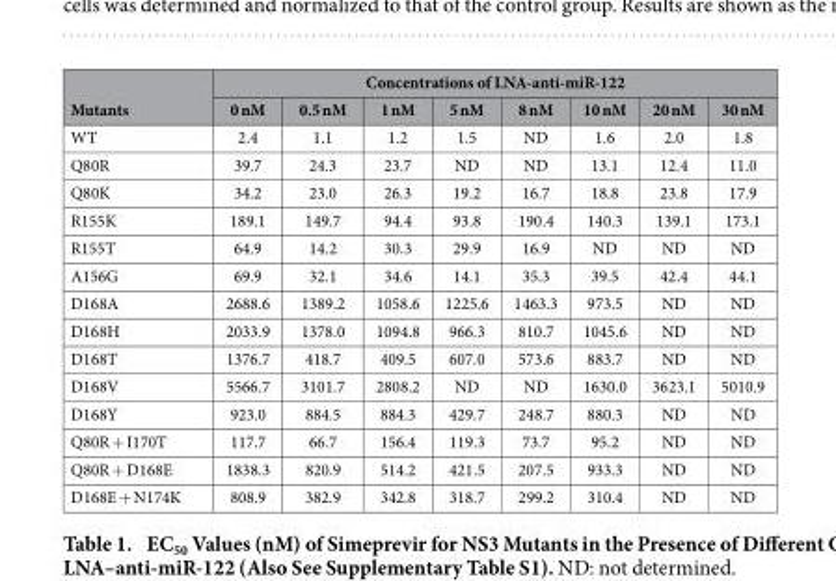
<table><thead><tr><td rowspan="2">Mutants</td><td colspan="8">Concentrations of LNA-anti-miR-122</td></tr><tr><td>0 nM</td><td>0.5 nM</td><td>1 nM</td><td>5 nM</td><td>8 nM</td><td>10 nM</td><td>20 nM</td><td>30 nM</td></tr></thead><tbody><tr><td>WT</td><td>2.4</td><td>1.1</td><td>1.2</td><td>1.5</td><td>ND</td><td>1.6</td><td>2.0</td><td>1.8</td></tr><tr><td>Q80R</td><td>39.7</td><td>24.3</td><td>23.7</td><td>ND</td><td>ND</td><td>13.1</td><td>12.4</td><td>11.0</td></tr><tr><td>Q80K</td><td>34.2</td><td>23.0</td><td>26.3</td><td>19.2</td><td>16.7</td><td>18.8</td><td>23.8</td><td>17.9</td></tr><tr><td>R155K</td><td>189.1</td><td>149.7</td><td>94.4</td><td>93.8</td><td>190.4</td><td>140.3</td><td>139.1</td><td>173.1</td></tr><tr><td>R155T</td><td>64.9</td><td>14.2</td><td>30.3</td><td>29.9</td><td>16.9</td><td>ND</td><td>ND</td><td>ND</td></tr><tr><td>A156G</td><td>69.9</td><td>32.1</td><td>34.6</td><td>14.1</td><td>35.3</td><td>39.5</td><td>42.4</td><td>44.1</td></tr><tr><td>D168A</td><td>2688.6</td><td>1389.2</td><td>1058.6</td><td>1225.6</td><td>1463.3</td><td>973.5</td><td>ND</td><td>ND</td></tr><tr><td>D168H</td><td>2033.9</td><td>1378.0</td><td>1094.8</td><td>966.3</td><td>810.7</td><td>1045.6</td><td>ND</td><td>ND</td></tr><tr><td>D168T</td><td>1376.7</td><td>418.7</td><td>409.5</td><td>607.0</td><td>573.6</td><td>883.7</td><td>ND</td><td>ND</td></tr><tr><td>D168V</td><td>5566.7</td><td>3101.7</td><td>2808.2</td><td>ND</td><td>ND</td><td>1630.0</td><td>3623.1</td><td>5010.9</td></tr><tr><td>D168Y</td><td>923.0</td><td>884.5</td><td>884.3</td><td>429.7</td><td>248.7</td><td>880.3</td><td>ND</td><td>ND</td></tr><tr><td>Q80R + I170T</td><td>117.7</td><td>66.7</td><td>156.4</td><td>119.3</td><td>73.7</td><td>95.2</td><td>ND</td><td>ND</td></tr><tr><td>Q80R + D168E</td><td>1838.3</td><td>820.9</td><td>514.2</td><td>421.5</td><td>207.5</td><td>933.3</td><td>ND</td><td>ND</td></tr><tr><td>D168E + N174K</td><td>808.9</td><td>382.9</td><td>342.8</td><td>318.7</td><td>299.2</td><td>310.4</td><td>ND</td><td>ND</td></tr></tbody></table>